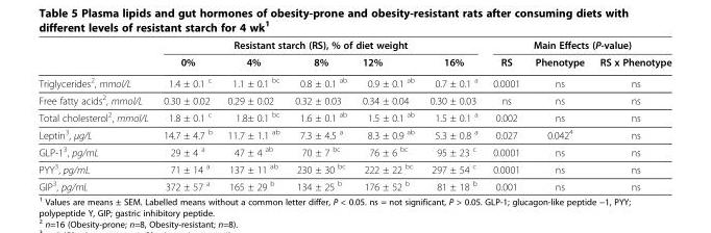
<table><thead><tr><td rowspan="2"></td><td colspan="5">Resistant starch (RS), % of diet weight</td><td colspan="3">Main Effects (P-value)</td></tr><tr><td>0%</td><td>4%</td><td>8%</td><td>12%</td><td>16%</td><td>RS</td><td>Phenotype</td><td>RS x Phenotype</td></tr></thead><tbody><tr><td>Triglycerides<sup>2</sup>, mmol/L</td><td>1.4 ± 0.1 <sup>c</sup></td><td>1.1 ± 0.1 <sup>bc</sup></td><td>0.8 ± 0.1 <sup>ab</sup></td><td>0.9 ± 0.1 <sup>ab</sup></td><td>0.7 ± 0.1 <sup>a</sup></td><td>0.0001</td><td>ns</td><td>ns</td></tr><tr><td>Free fatty acids<sup>2</sup>, mmol/L</td><td>0.30 ± 0.02</td><td>0.29 ± 0.02</td><td>0.32 ± 0.03</td><td>0.34 ± 0.04</td><td>0.30 ± 0.03</td><td>ns</td><td>ns</td><td>ns</td></tr><tr><td>Total cholesterol<sup>2</sup>, mmol/L</td><td>1.8 ± 0.1 <sup>c</sup></td><td>1.8± 0.1 <sup>bc</sup></td><td>1.6 ± 0.1 <sup>ab</sup></td><td>1.5 ± 0.1 <sup>ab</sup></td><td>1.5 ± 0.1 <sup>a</sup></td><td>0.002</td><td>ns</td><td>ns</td></tr><tr><td>Leptin<sup>3</sup>, μg/L</td><td>14.7 ± 4.7 <sup>b</sup></td><td>11.7 ± 1.1 <sup>ab</sup></td><td>7.3 ± 4.5 <sup>a</sup></td><td>8.3 ± 0.9 <sup>ab</sup></td><td>5.3 ± 0.8 <sup>a</sup></td><td>0.027</td><td>0.042<sup>4</sup></td><td>ns</td></tr><tr><td>GLP-1<sup>3</sup>, pg/mL</td><td>29 ± 4 <sup>a</sup></td><td>47 ± 4 <sup>ab</sup></td><td>70 ± 7 <sup>bc</sup></td><td>76 ± 6 <sup>bc</sup></td><td>95 ± 23 <sup>c</sup></td><td>0.0001</td><td>ns</td><td>ns</td></tr><tr><td>PYY<sup>3</sup>, pg/mL</td><td>71 ± 14 <sup>a</sup></td><td>137 ± 11 <sup>ab</sup></td><td>230 ± 30 <sup>bc</sup></td><td>222 ± 22 <sup>bc</sup></td><td>297 ± 54 <sup>c</sup></td><td>0.0001</td><td>ns</td><td>ns</td></tr><tr><td>GIP<sup>3</sup>, pg/mL</td><td>372 ± 57 <sup>a</sup></td><td>165 ± 29 <sup>b</sup></td><td>134 ± 25 <sup>b</sup></td><td>176 ± 52 <sup>b</sup></td><td>81 ± 18 <sup>b</sup></td><td>0.001</td><td>ns</td><td>ns</td></tr></tbody></table>